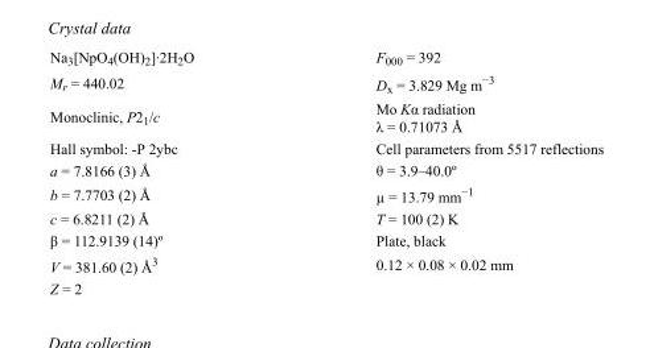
<table><tbody><tr><td>Na<sub>3</sub>[NpO<sub>4</sub>(OH)<sub>2</sub>]·2H<sub>2</sub>O</td><td>F<sub>000</sub> = 392</td></tr><tr><td>M<sub>r</sub> = 440.02</td><td>D<sub>x</sub> = 3.829 Mg m<sup>−3</sup></td></tr><tr><td>Monoclinic, P2<sub>1</sub>/c</td><td>Mo Kα radiation λ = 0.71073 Å</td></tr><tr><td>Hall symbol: -P 2ybc</td><td>Cell parameters from 5517 reflections</td></tr><tr><td>a = 7.8166 (3) Å</td><td>θ = 3.9–40.0º</td></tr><tr><td>b = 7.7703 (2) Å</td><td>µ = 13.79 mm<sup>−1</sup></td></tr><tr><td>c = 6.8211 (2) Å</td><td>T = 100 (2) K</td></tr><tr><td>β = 112.9139 (14)º</td><td>Plate, black</td></tr><tr><td>V = 381.60 (2) Å<sup>3</sup></td><td>0.12 × 0.08 × 0.02 mm</td></tr><tr><td>Z = 2</td><td></td></tr></tbody></table>